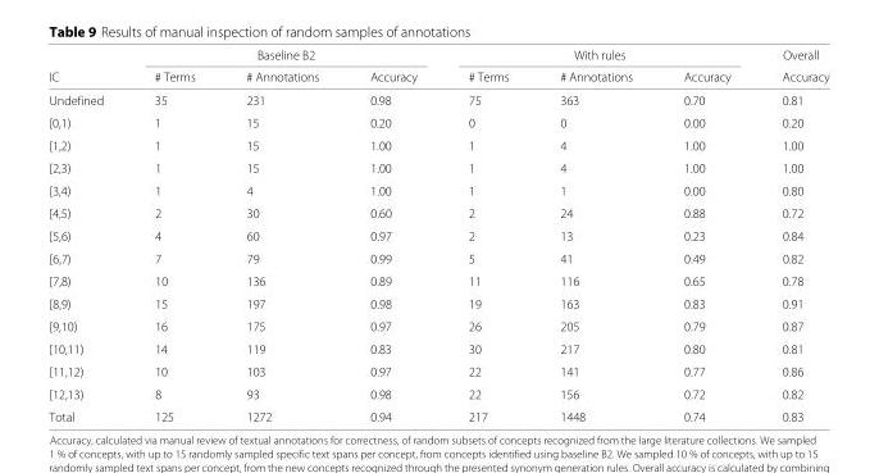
<table><thead><tr><td rowspan="2">IC</td><td colspan="3">Baseline B2</td><td colspan="3">With rules</td><td rowspan="2">Overall Accuracy</td></tr><tr><td># Terms</td><td># Annotations</td><td>Accuracy</td><td># Terms</td><td># Annotations</td><td>Accuracy</td></tr></thead><tbody><tr><td>Undefined</td><td>35</td><td>231</td><td>0.98</td><td>75</td><td>363</td><td>0.70</td><td>0.81</td></tr><tr><td>[0,1)</td><td>1</td><td>15</td><td>0.20</td><td>0</td><td>0</td><td>0.00</td><td>0.20</td></tr><tr><td>[1,2)</td><td>1</td><td>15</td><td>1.00</td><td>1</td><td>4</td><td>1.00</td><td>1.00</td></tr><tr><td>[2,3)</td><td>1</td><td>15</td><td>1.00</td><td>1</td><td>4</td><td>1.00</td><td>1.00</td></tr><tr><td>[3,4)</td><td>1</td><td>4</td><td>1.00</td><td>1</td><td>1</td><td>0.00</td><td>0.80</td></tr><tr><td>[4,5)</td><td>2</td><td>30</td><td>0.60</td><td>2</td><td>24</td><td>0.88</td><td>0.72</td></tr><tr><td>[5,6)</td><td>4</td><td>60</td><td>0.97</td><td>2</td><td>13</td><td>0.23</td><td>0.84</td></tr><tr><td>[6,7)</td><td>7</td><td>79</td><td>0.99</td><td>5</td><td>41</td><td>0.49</td><td>0.82</td></tr><tr><td>[7,8)</td><td>10</td><td>136</td><td>0.89</td><td>11</td><td>116</td><td>0.65</td><td>0.78</td></tr><tr><td>[8,9)</td><td>15</td><td>197</td><td>0.98</td><td>19</td><td>163</td><td>0.83</td><td>0.91</td></tr><tr><td>[9,10)</td><td>16</td><td>175</td><td>0.97</td><td>26</td><td>205</td><td>0.79</td><td>0.87</td></tr><tr><td>[10,11)</td><td>14</td><td>119</td><td>0.83</td><td>30</td><td>217</td><td>0.80</td><td>0.81</td></tr><tr><td>[11,12)</td><td>10</td><td>103</td><td>0.97</td><td>22</td><td>141</td><td>0.77</td><td>0.86</td></tr><tr><td>[12,13)</td><td>8</td><td>93</td><td>0.98</td><td>22</td><td>156</td><td>0.72</td><td>0.82</td></tr><tr><td>Total</td><td>125</td><td>1272</td><td>0.94</td><td>217</td><td>1448</td><td>0.74</td><td>0.83</td></tr></tbody></table>